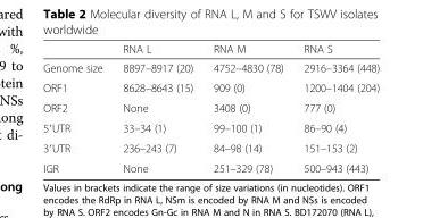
<table><thead><tr><td></td><td>RNA L</td><td>RNA M</td><td>RNA S</td></tr></thead><tbody><tr><td>Genome size</td><td>8897–8917 (20)</td><td>4752–4830 (78)</td><td>2916–3364 (448)</td></tr><tr><td>ORF1</td><td>8628–8643 (15)</td><td>909 (0)</td><td>1200–1404 (204)</td></tr><tr><td>ORF2</td><td>None</td><td>3408 (0)</td><td>777 (0)</td></tr><tr><td>5′UTR</td><td>33–34 (1)</td><td>99–100 (1)</td><td>86–90 (4)</td></tr><tr><td>3′UTR</td><td>236–243 (7)</td><td>84–98 (14)</td><td>151–153 (2)</td></tr><tr><td>IGR</td><td>None</td><td>251–329 (78)</td><td>500–943 (443)</td></tr></tbody></table>